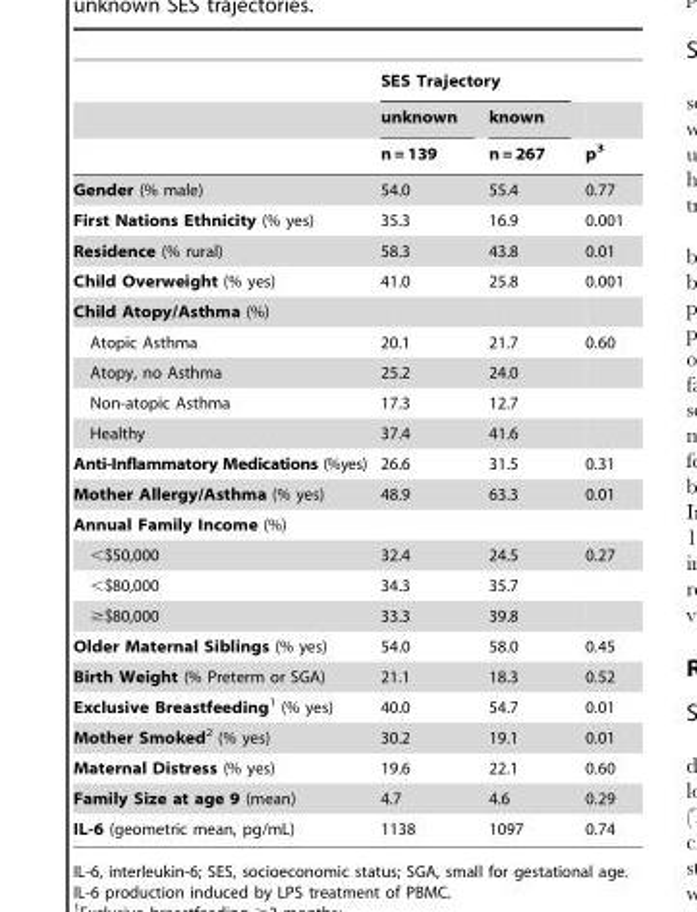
<table><thead><tr><td rowspan="3"></td><td colspan="2">SES Trajectory</td><td rowspan="3">p<sup>3</sup></td></tr><tr><td rowspan="2">unknown n = 139</td><td rowspan="2">known n = 267</td></tr><tr></tr></thead><tbody><tr><td>Gender (% male)</td><td>54.0</td><td>55.4</td><td>0.77</td></tr><tr><td>First Nations Ethnicity (% yes)</td><td>35.3</td><td>16.9</td><td>0.001</td></tr><tr><td>Residence (% rural)</td><td>58.3</td><td>43.8</td><td>0.01</td></tr><tr><td>Child Overweight (% yes)</td><td>41.0</td><td>25.8</td><td>0.001</td></tr><tr><td colspan="4">Child Atopy/Asthma (%)</td></tr><tr><td>Atopic Asthma</td><td>20.1</td><td>21.7</td><td>0.60</td></tr><tr><td>Atopy, no Asthma</td><td>25.2</td><td>24.0</td><td></td></tr><tr><td>Non-atopic Asthma</td><td>17.3</td><td>12.7</td><td></td></tr><tr><td>Healthy</td><td>37.4</td><td>41.6</td><td></td></tr><tr><td>Anti-Inflammatory Medications (%yes)</td><td>26.6</td><td>31.5</td><td>0.31</td></tr><tr><td>Mother Allergy/Asthma (% yes)</td><td>48.9</td><td>63.3</td><td>0.01</td></tr><tr><td colspan="4">Annual Family Income (%)</td></tr><tr><td>&lt;$50,000</td><td>32.4</td><td>24.5</td><td>0.27</td></tr><tr><td>&lt;$80,000</td><td>34.3</td><td>35.7</td><td></td></tr><tr><td>≥$80,000</td><td>33.3</td><td>39.8</td><td></td></tr><tr><td>Older Maternal Siblings (% yes)</td><td>54.0</td><td>58.0</td><td>0.45</td></tr><tr><td>Birth Weight (% Preterm or SGA)</td><td>21.1</td><td>18.3</td><td>0.52</td></tr><tr><td>Exclusive Breastfeeding1 (% yes)</td><td>40.0</td><td>54.7</td><td>0.01</td></tr><tr><td>Mother Smoked2 (% yes)</td><td>30.2</td><td>19.1</td><td>0.01</td></tr><tr><td>Maternal Distress (% yes)</td><td>19.6</td><td>22.1</td><td>0.60</td></tr><tr><td>Family Size at age 9 (mean)</td><td>4.7</td><td>4.6</td><td>0.29</td></tr><tr><td>IL-6 (geometric mean, pg/mL)</td><td>1138</td><td>1097</td><td>0.74</td></tr></tbody></table>